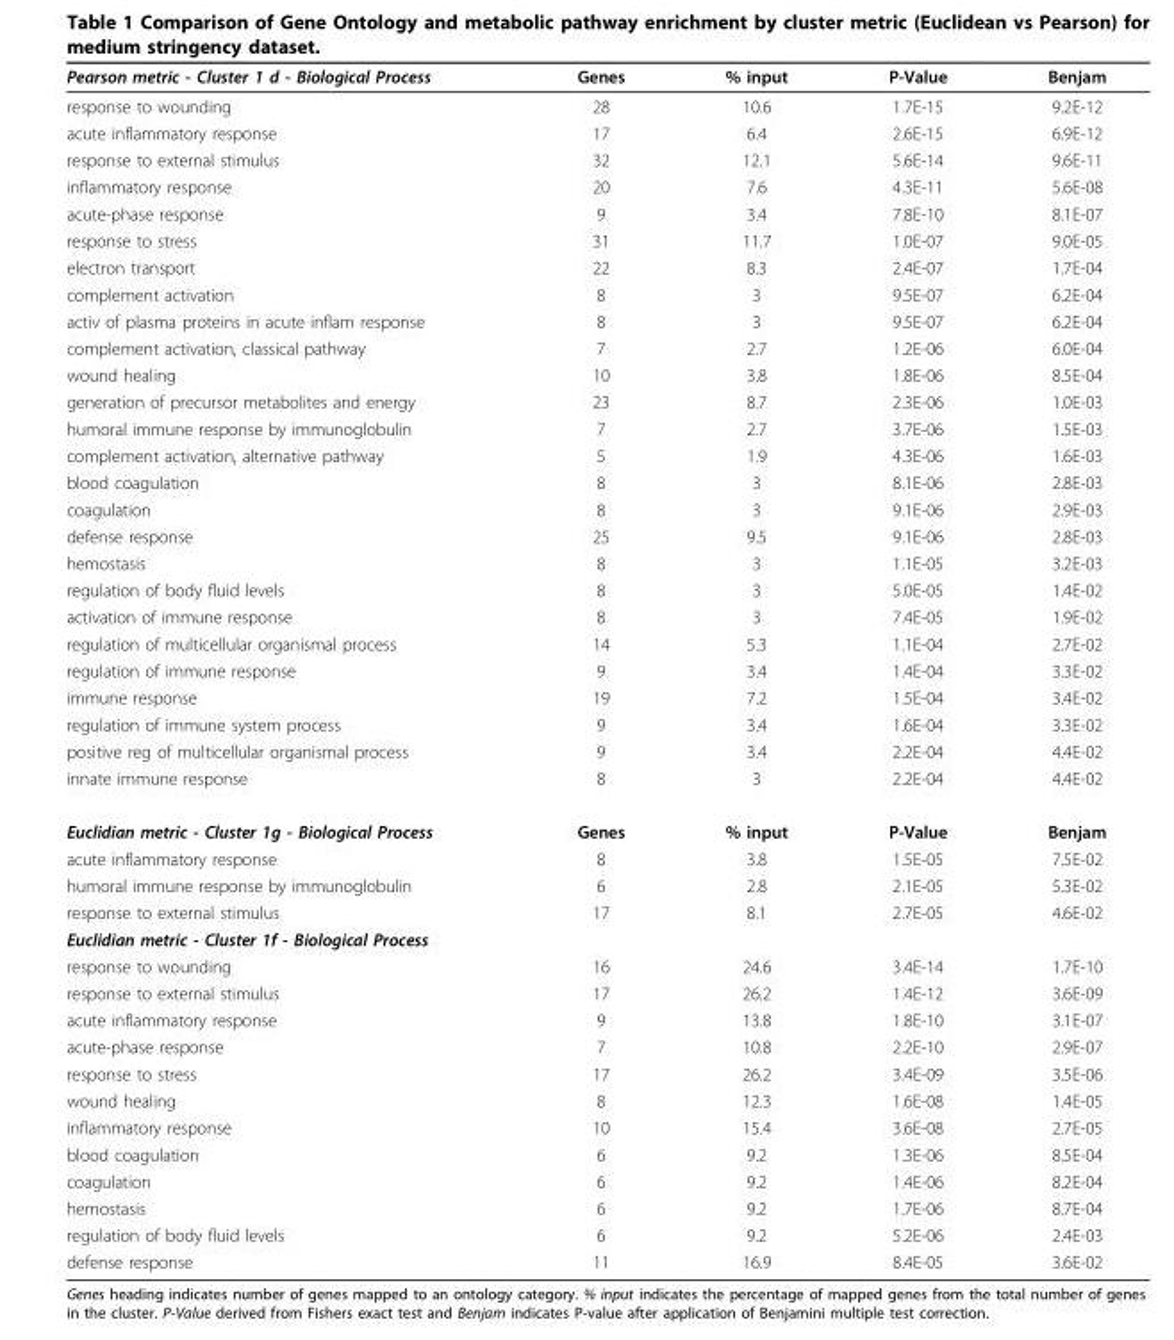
<table><thead><tr><td>Pearson metric - Cluster 1 d - Biological Process</td><td>Genes</td><td>% input</td><td>P-Value</td><td>Benjam</td></tr></thead><tbody><tr><td>response to wounding</td><td>28</td><td>10.6</td><td>1.7E-15</td><td>9.2E-12</td></tr><tr><td>acute inflammatory response</td><td>17</td><td>6.4</td><td>2.6E-15</td><td>6.9E-12</td></tr><tr><td>response to external stimulus</td><td>32</td><td>12.1</td><td>5.6E-14</td><td>9.6E-11</td></tr><tr><td>inflammatory response</td><td>20</td><td>7.6</td><td>4.3E-11</td><td>5.6E-08</td></tr><tr><td>acute-phase response</td><td>9</td><td>3.4</td><td>7.8E-10</td><td>8.1E-07</td></tr><tr><td>response to stress</td><td>31</td><td>11.7</td><td>1.0E-07</td><td>9.0E-05</td></tr><tr><td>electron transport</td><td>22</td><td>8.3</td><td>2.4E-07</td><td>1.7E-04</td></tr><tr><td>complement activation</td><td>8</td><td>3</td><td>9.5E-07</td><td>6.2E-04</td></tr><tr><td>activ of plasma proteins in acute inflam response</td><td>8</td><td>3</td><td>9.5E-07</td><td>6.2E-04</td></tr><tr><td>complement activation, classical pathway</td><td>7</td><td>2.7</td><td>1.2E-06</td><td>6.0E-04</td></tr><tr><td>wound healing</td><td>10</td><td>3.8</td><td>1.8E-06</td><td>8.5E-04</td></tr><tr><td>generation of precursor metabolites and energy</td><td>23</td><td>8.7</td><td>2.3E-06</td><td>1.0E-03</td></tr><tr><td>humoral immune response by immunoglobulin</td><td>7</td><td>2.7</td><td>3.7E-06</td><td>1.5E-03</td></tr><tr><td>complement activation, alternative pathway</td><td>5</td><td>1.9</td><td>4.3E-06</td><td>1.6E-03</td></tr><tr><td>blood coagulation</td><td>8</td><td>3</td><td>8.1E-06</td><td>2.8E-03</td></tr><tr><td>coagulation</td><td>8</td><td>3</td><td>9.1E-06</td><td>2.9E-03</td></tr><tr><td>defense response</td><td>25</td><td>9.5</td><td>9.1E-06</td><td>2.8E-03</td></tr><tr><td>hemostasis</td><td>8</td><td>3</td><td>1.1E-05</td><td>3.2E-03</td></tr><tr><td>regulation of body fluid levels</td><td>8</td><td>3</td><td>5.0E-05</td><td>1.4E-02</td></tr><tr><td>activation of immune response</td><td>8</td><td>3</td><td>7.4E-05</td><td>1.9E-02</td></tr><tr><td>regulation of multicellular organismal process</td><td>14</td><td>5.3</td><td>1.1E-04</td><td>2.7E-02</td></tr><tr><td>regulation of immune response</td><td>9</td><td>3.4</td><td>1.4E-04</td><td>3.3E-02</td></tr><tr><td>immune response</td><td>19</td><td>7.2</td><td>1.5E-04</td><td>3.4E-02</td></tr><tr><td>regulation of immune system process</td><td>9</td><td>3.4</td><td>1.6E-04</td><td>3.3E-02</td></tr><tr><td>positive reg of multicellular organismal process</td><td>9</td><td>3.4</td><td>2.2E-04</td><td>4.4E-02</td></tr><tr><td>innate immune response</td><td>8</td><td>3</td><td>2.2E-04</td><td>4.4E-02</td></tr><tr><td>Euclidian metric - Cluster 1g - Biological Process</td><td>Genes</td><td>% input</td><td>P-Value</td><td>Benjam</td></tr><tr><td>acute inflammatory response</td><td>8</td><td>3.8</td><td>1.5E-05</td><td>7.5E-02</td></tr><tr><td>humoral immune response by immunoglobulin</td><td>6</td><td>2.8</td><td>2.1E-05</td><td>5.3E-02</td></tr><tr><td>response to external stimulus</td><td>17</td><td>8.1</td><td>2.7E-05</td><td>4.6E-02</td></tr><tr><td colspan="5">Euclidian metric - Cluster 1f - Biological Process</td></tr><tr><td>response to wounding</td><td>16</td><td>24.6</td><td>3.4E-14</td><td>1.7E-10</td></tr><tr><td>response to external stimulus</td><td>17</td><td>26.2</td><td>1.4E-12</td><td>3.6E-09</td></tr><tr><td>acute inflammatory response</td><td>9</td><td>13.8</td><td>1.8E-10</td><td>3.1E-07</td></tr><tr><td>acute-phase response</td><td>7</td><td>10.8</td><td>2.2E-10</td><td>2.9E-07</td></tr><tr><td>response to stress</td><td>17</td><td>26.2</td><td>3.4E-09</td><td>3.5E-06</td></tr><tr><td>wound healing</td><td>8</td><td>12.3</td><td>1.6E-08</td><td>1.4E-05</td></tr><tr><td>inflammatory response</td><td>10</td><td>15.4</td><td>3.6E-08</td><td>2.7E-05</td></tr><tr><td>blood coagulation</td><td>6</td><td>9.2</td><td>1.3E-06</td><td>8.5E-04</td></tr><tr><td>coagulation</td><td>6</td><td>9.2</td><td>1.4E-06</td><td>8.2E-04</td></tr><tr><td>hemostasis</td><td>6</td><td>9.2</td><td>1.7E-06</td><td>8.7E-04</td></tr><tr><td>regulation of body fluid levels</td><td>6</td><td>9.2</td><td>5.2E-06</td><td>2.4E-03</td></tr><tr><td>defense response</td><td>11</td><td>16.9</td><td>8.4E-05</td><td>3.6E-02</td></tr></tbody></table>